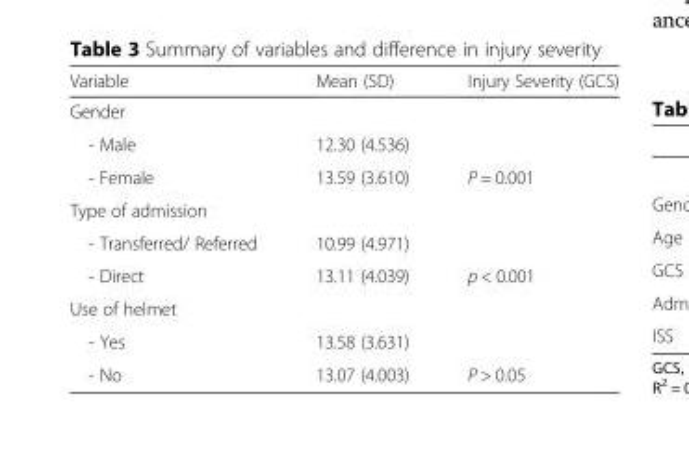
<table><thead><tr><td>Variable</td><td>Mean (SD)</td><td>Injury Severity (GCS)</td></tr></thead><tbody><tr><td colspan="3">Gender</td></tr><tr><td>- Male</td><td>12.30 (4.536)</td><td></td></tr><tr><td>- Female</td><td>13.59 (3.610)</td><td>P = 0.001</td></tr><tr><td colspan="3">Type of admission</td></tr><tr><td>- Transferred/ Referred</td><td>10.99 (4.971)</td><td></td></tr><tr><td>- Direct</td><td>13.11 (4.039)</td><td>p &lt; 0.001</td></tr><tr><td colspan="3">Use of helmet</td></tr><tr><td>- Yes</td><td>13.58 (3.631)</td><td></td></tr><tr><td>- No</td><td>13.07 (4.003)</td><td>P &gt; 0.05</td></tr></tbody></table>